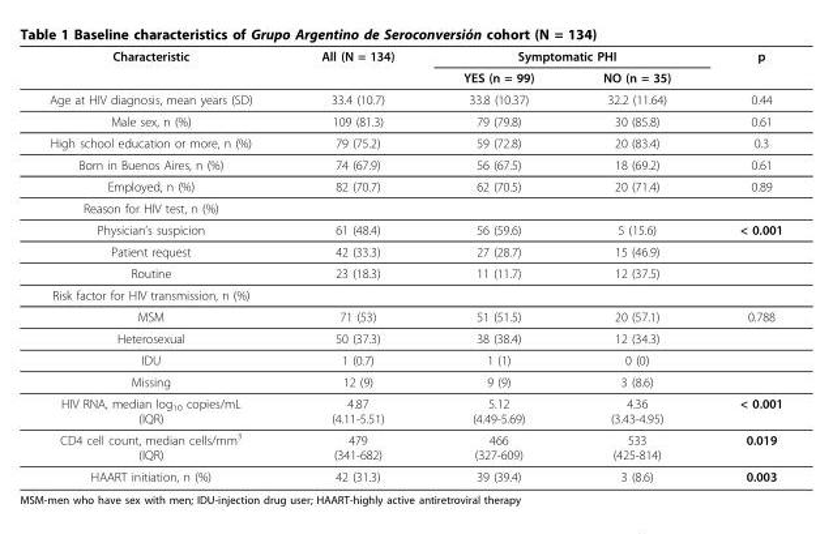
<table><thead><tr><td rowspan="2">Characteristic</td><td rowspan="2">All (N = 134)</td><td colspan="2">Symptomatic PHI</td><td rowspan="2">p</td></tr><tr><td>YES (n = 99)</td><td>NO (n = 35)</td></tr></thead><tbody><tr><td>Age at HIV diagnosis, mean years (SD)</td><td>33.4 (10.7)</td><td>33.8 (10.37)</td><td>32.2 (11.64)</td><td>0.44</td></tr><tr><td>Male sex, n (%)</td><td>109 (81.3)</td><td>79 (79.8)</td><td>30 (85.8)</td><td>0.61</td></tr><tr><td>High school education or more, n (%)</td><td>79 (75.2)</td><td>59 (72.8)</td><td>20 (83.4)</td><td>0.3</td></tr><tr><td>Born in Buenos Aires, n (%)</td><td>74 (67.9)</td><td>56 (67.5)</td><td>18 (69.2)</td><td>0.61</td></tr><tr><td>Employed, n (%)</td><td>82 (70.7)</td><td>62 (70.5)</td><td>20 (71.4)</td><td>0.89</td></tr><tr><td colspan="5">Reason for HIV test, n (%)</td></tr><tr><td>Physician’s suspicion</td><td>61 (48.4)</td><td>56 (59.6)</td><td>5 (15.6)</td><td>&lt; 0.001</td></tr><tr><td>Patient request</td><td>42 (33.3)</td><td>27 (28.7)</td><td>15 (46.9)</td><td></td></tr><tr><td>Routine</td><td>23 (18.3)</td><td>11 (11.7)</td><td>12 (37.5)</td><td></td></tr><tr><td colspan="5">Risk factor for HIV transmission, n (%)</td></tr><tr><td>MSM</td><td>71 (53)</td><td>51 (51.5)</td><td>20 (57.1)</td><td>0.788</td></tr><tr><td>Heterosexual</td><td>50 (37.3)</td><td>38 (38.4)</td><td>12 (34.3)</td><td></td></tr><tr><td>IDU</td><td>1 (0.7)</td><td>1 (1)</td><td>0 (0)</td><td></td></tr><tr><td>Missing</td><td>12 (9)</td><td>9 (9)</td><td>3 (8.6)</td><td></td></tr><tr><td>HIV RNA, median log<sub>10</sub> copies/mL (IQR)</td><td>4.87 (4.11-5.51)</td><td>5.12 (4.49-5.69)</td><td>4.36 (3.43-4.95)</td><td>&lt; 0.001</td></tr><tr><td>CD4 cell count, median cells/mm<sup>3</sup> (IQR)</td><td>479 (341-682)</td><td>466 (327-609)</td><td>533 (425-814)</td><td>0.019</td></tr><tr><td>HAART initiation, n (%)</td><td>42 (31.3)</td><td>39 (39.4)</td><td>3 (8.6)</td><td>0.003</td></tr></tbody></table>